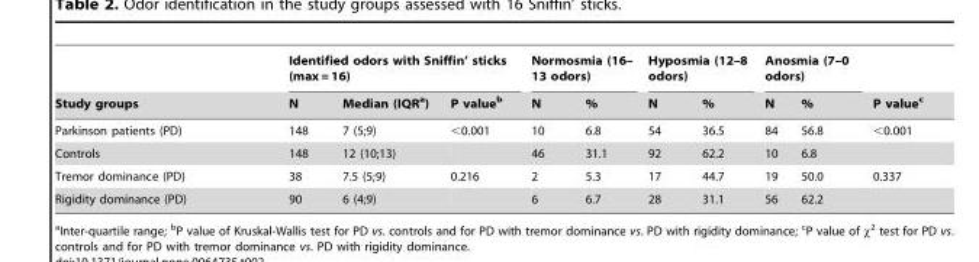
<table><thead><tr><td rowspan="2">Study groups</td><td colspan="3">Identified odors with Sniffin’ sticks (max = 16)</td><td colspan="2">Normosmia (16– 13 odors)</td><td colspan="2">Hyposmia (12–8 odors)</td><td colspan="2">Anosmia (7–0 odors)</td><td rowspan="2">P value<sup>c</sup></td></tr><tr><td>N</td><td>Median (IQR<sup>a</sup>)</td><td>P value<sup>b</sup></td><td>N</td><td>%</td><td>N</td><td>%</td><td>N</td><td>%</td></tr></thead><tbody><tr><td>Parkinson patients (PD)</td><td>148</td><td>7 (5;9)</td><td>&lt;0.001</td><td>10</td><td>6.8</td><td>54</td><td>36.5</td><td>84</td><td>56.8</td><td>&lt;0.001</td></tr><tr><td>Controls</td><td>148</td><td>12 (10;13)</td><td></td><td>46</td><td>31.1</td><td>92</td><td>62.2</td><td>10</td><td>6.8</td><td></td></tr><tr><td>Tremor dominance (PD)</td><td>38</td><td>7.5 (5;9)</td><td>0.216</td><td>2</td><td>5.3</td><td>17</td><td>44.7</td><td>19</td><td>50.0</td><td>0.337</td></tr><tr><td>Rigidity dominance (PD)</td><td>90</td><td>6 (4;9)</td><td></td><td>6</td><td>6.7</td><td>28</td><td>31.1</td><td>56</td><td>62.2</td><td></td></tr></tbody></table>